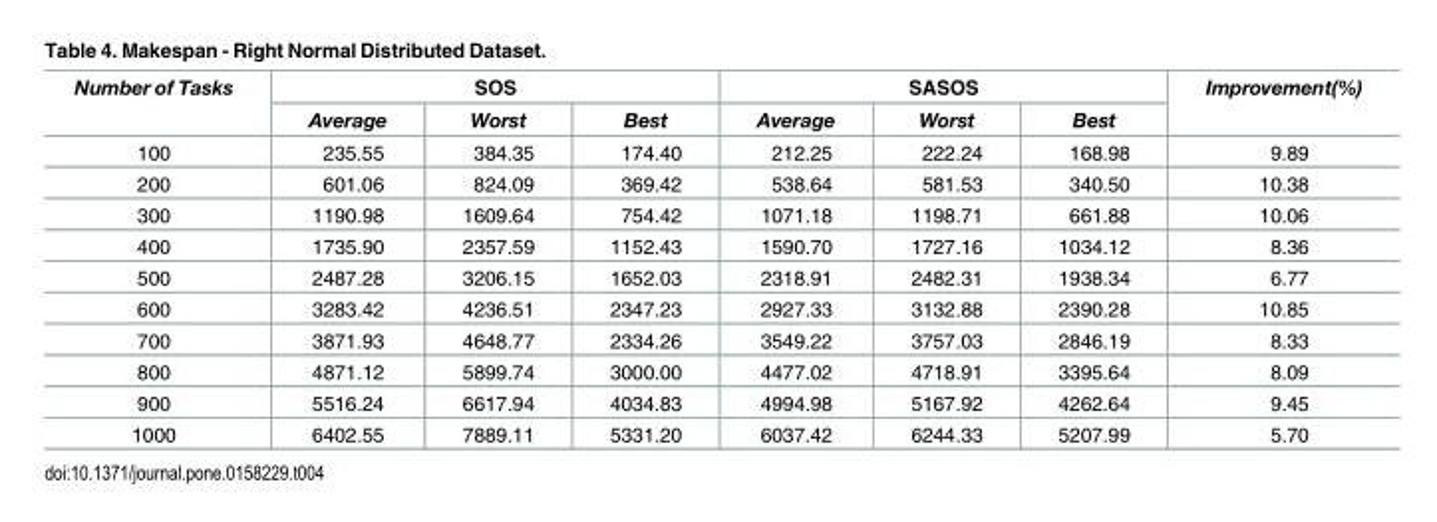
<table><thead><tr><td rowspan="2">Number of Tasks</td><td colspan="3">SOS</td><td colspan="3">SASOS</td><td rowspan="2">Improvement(%)</td></tr><tr><td>Average</td><td>Worst</td><td>Best</td><td>Average</td><td>Worst</td><td>Best</td></tr></thead><tbody><tr><td>100</td><td>235.55</td><td>384.35</td><td>174.40</td><td>212.25</td><td>222.24</td><td>168.98</td><td>9.89</td></tr><tr><td>200</td><td>601.06</td><td>824.09</td><td>369.42</td><td>538.64</td><td>581.53</td><td>340.50</td><td>10.38</td></tr><tr><td>300</td><td>1190.98</td><td>1609.64</td><td>754.42</td><td>1071.18</td><td>1198.71</td><td>661.88</td><td>10.06</td></tr><tr><td>400</td><td>1735.90</td><td>2357.59</td><td>1152.43</td><td>1590.70</td><td>1727.16</td><td>1034.12</td><td>8.36</td></tr><tr><td>500</td><td>2487.28</td><td>3206.15</td><td>1652.03</td><td>2318.91</td><td>2482.31</td><td>1938.34</td><td>6.77</td></tr><tr><td>600</td><td>3283.42</td><td>4236.51</td><td>2347.23</td><td>2927.33</td><td>3132.88</td><td>2390.28</td><td>10.85</td></tr><tr><td>700</td><td>3871.93</td><td>4648.77</td><td>2334.26</td><td>3549.22</td><td>3757.03</td><td>2846.19</td><td>8.33</td></tr><tr><td>800</td><td>4871.12</td><td>5899.74</td><td>3000.00</td><td>4477.02</td><td>4718.91</td><td>3395.64</td><td>8.09</td></tr><tr><td>900</td><td>5516.24</td><td>6617.94</td><td>4034.83</td><td>4994.98</td><td>5167.92</td><td>4262.64</td><td>9.45</td></tr><tr><td>1000</td><td>6402.55</td><td>7889.11</td><td>5331.20</td><td>6037.42</td><td>6244.33</td><td>5207.99</td><td>5.70</td></tr></tbody></table>